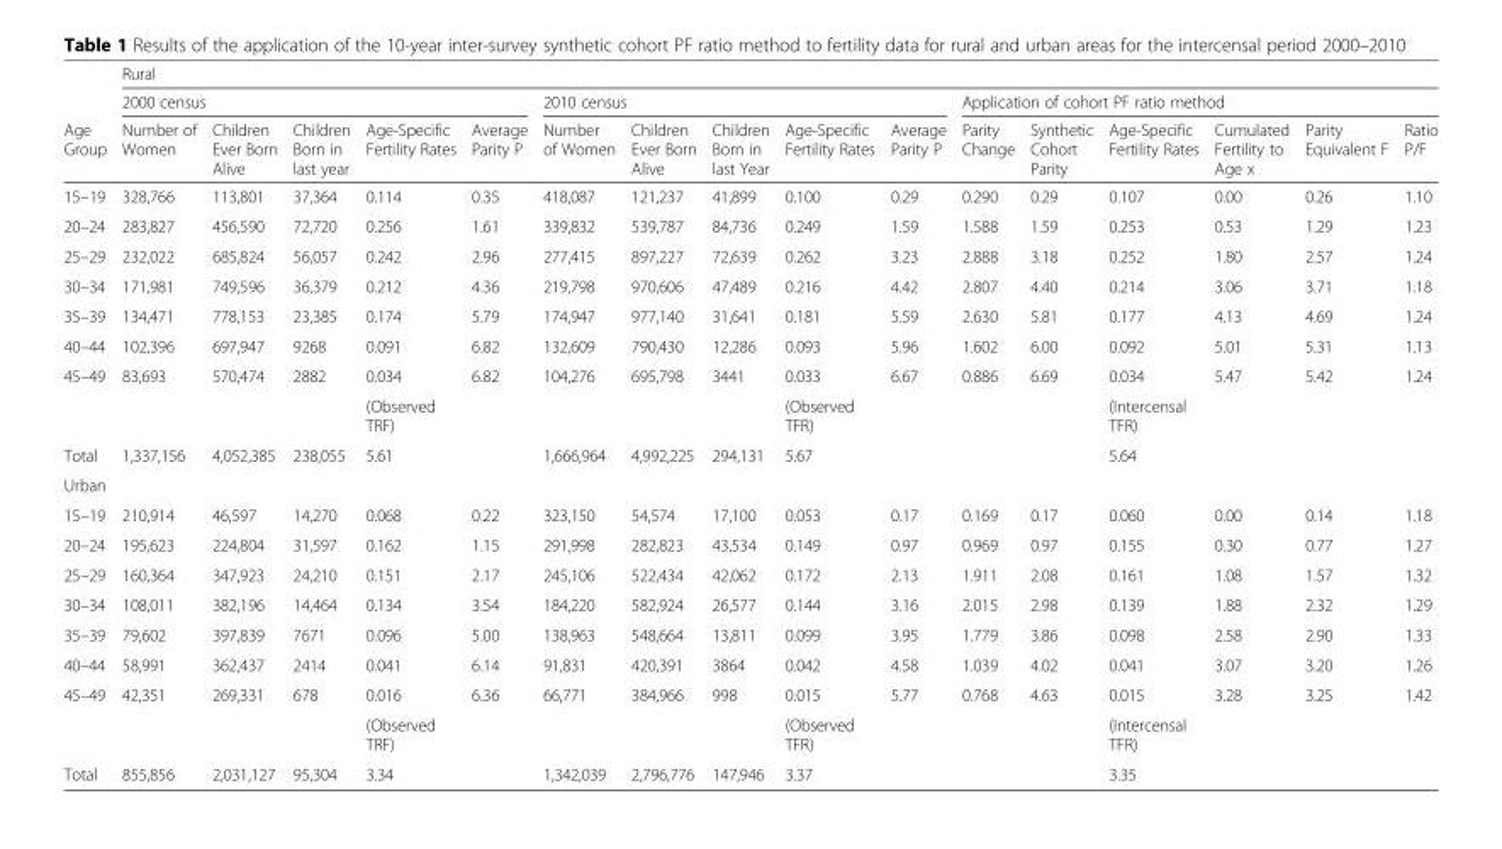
<table><thead><tr><td rowspan="3">Age Group</td><td colspan="16">Rural</td></tr><tr><td colspan="5">2000 census</td><td colspan="5">2010 census</td><td colspan="6">Application of cohort PF ratio method</td></tr><tr><td>Number of Women</td><td>Children Ever Born Alive</td><td>Children Born in last year</td><td>Age-Specific Fertility Rates</td><td>Average Parity P</td><td>Number of Women</td><td>Children Ever Born Alive</td><td>Children Born in last Year</td><td>Age-Specific Fertility Rates</td><td>Average Parity P</td><td>Parity Change</td><td>Synthetic Cohort Parity</td><td>Age-Specific Fertility Rates</td><td>Cumulated Fertility to Age x</td><td>Parity Equivalent F</td><td>Ratio P/F</td></tr></thead><tbody><tr><td>15–19</td><td>328,766</td><td>113,801</td><td>37,364</td><td>0.114</td><td>0.35</td><td>418,087</td><td>121,237</td><td>41,899</td><td>0.100</td><td>0.29</td><td>0.290</td><td>0.29</td><td>0.107</td><td>0.00</td><td>0.26</td><td>1.10</td></tr><tr><td>20–24</td><td>283,827</td><td>456,590</td><td>72,720</td><td>0.256</td><td>1.61</td><td>339,832</td><td>539,787</td><td>84,736</td><td>0.249</td><td>1.59</td><td>1.588</td><td>1.59</td><td>0.253</td><td>0.53</td><td>1.29</td><td>1.23</td></tr><tr><td>25–29</td><td>232,022</td><td>685,824</td><td>56,057</td><td>0.242</td><td>2.96</td><td>277,415</td><td>897,227</td><td>72,639</td><td>0.262</td><td>3.23</td><td>2.888</td><td>3.18</td><td>0.252</td><td>1.80</td><td>2.57</td><td>1.24</td></tr><tr><td>30–34</td><td>171,981</td><td>749,596</td><td>36,379</td><td>0.212</td><td>4.36</td><td>219,798</td><td>970,606</td><td>47,489</td><td>0.216</td><td>4.42</td><td>2.807</td><td>4.40</td><td>0.214</td><td>3.06</td><td>3.71</td><td>1.18</td></tr><tr><td>35–39</td><td>134,471</td><td>778,153</td><td>23,385</td><td>0.174</td><td>5.79</td><td>174,947</td><td>977,140</td><td>31,641</td><td>0.181</td><td>5.59</td><td>2.630</td><td>5.81</td><td>0.177</td><td>4.13</td><td>4.69</td><td>1.24</td></tr><tr><td>40–44</td><td>102,396</td><td>697,947</td><td>9268</td><td>0.091</td><td>6.82</td><td>132,609</td><td>790,430</td><td>12,286</td><td>0.093</td><td>5.96</td><td>1.602</td><td>6.00</td><td>0.092</td><td>5.01</td><td>5.31</td><td>1.13</td></tr><tr><td rowspan="2">45–49</td><td>83,693</td><td>570,474</td><td>2882</td><td>0.034</td><td>6.82</td><td>104,276</td><td>695,798</td><td>3441</td><td>0.033</td><td>6.67</td><td>0.886</td><td>6.69</td><td>0.034</td><td>5.47</td><td>5.42</td><td>1.24</td></tr><tr><td></td><td></td><td></td><td>(Observed TRF)</td><td></td><td></td><td></td><td></td><td>(Observed TFR)</td><td></td><td></td><td></td><td>(Intercensal TFR)</td><td></td><td></td><td></td></tr><tr><td>Total</td><td>1,337,156</td><td>4,052,385</td><td>238,055</td><td>5.61</td><td></td><td>1,666,964</td><td>4,992,225</td><td>294,131</td><td>5.67</td><td></td><td></td><td></td><td>5.64</td><td></td><td></td><td></td></tr><tr><td colspan="17">Urban</td></tr><tr><td>15–19</td><td>210,914</td><td>46,597</td><td>14,270</td><td>0.068</td><td>0.22</td><td>323,150</td><td>54,574</td><td>17,100</td><td>0.053</td><td>0.17</td><td>0.169</td><td>0.17</td><td>0.060</td><td>0.00</td><td>0.14</td><td>1.18</td></tr><tr><td>20–24</td><td>195,623</td><td>224,804</td><td>31,597</td><td>0.162</td><td>1.15</td><td>291,998</td><td>282,823</td><td>43,534</td><td>0.149</td><td>0.97</td><td>0.969</td><td>0.97</td><td>0.155</td><td>0.30</td><td>0.77</td><td>1.27</td></tr><tr><td>25–29</td><td>160,364</td><td>347,923</td><td>24,210</td><td>0.151</td><td>2.17</td><td>245,106</td><td>522,434</td><td>42,062</td><td>0.172</td><td>2.13</td><td>1.911</td><td>2.08</td><td>0.161</td><td>1.08</td><td>1.57</td><td>1.32</td></tr><tr><td>30–34</td><td>108,011</td><td>382,196</td><td>14,464</td><td>0.134</td><td>3.54</td><td>184,220</td><td>582,924</td><td>26,577</td><td>0.144</td><td>3.16</td><td>2.015</td><td>2.98</td><td>0.139</td><td>1.88</td><td>2.32</td><td>1.29</td></tr><tr><td>35–39</td><td>79,602</td><td>397,839</td><td>7671</td><td>0.096</td><td>5.00</td><td>138,963</td><td>548,664</td><td>13,811</td><td>0.099</td><td>3.95</td><td>1.779</td><td>3.86</td><td>0.098</td><td>2.58</td><td>2.90</td><td>1.33</td></tr><tr><td>40–44</td><td>58,991</td><td>362,437</td><td>2414</td><td>0.041</td><td>6.14</td><td>91,831</td><td>420,391</td><td>3864</td><td>0.042</td><td>4.58</td><td>1.039</td><td>4.02</td><td>0.041</td><td>3.07</td><td>3.20</td><td>1.26</td></tr><tr><td rowspan="2">45–49</td><td>42,351</td><td>269,331</td><td>678</td><td>0.016</td><td>6.36</td><td>66,771</td><td>384,966</td><td>998</td><td>0.015</td><td>5.77</td><td>0.768</td><td>4.63</td><td>0.015</td><td>3.28</td><td>3.25</td><td>1.42</td></tr><tr><td></td><td></td><td></td><td>(Observed TRF)</td><td></td><td></td><td></td><td></td><td>(Observed TFR)</td><td></td><td></td><td></td><td>(Intercensal TFR)</td><td></td><td></td><td></td></tr><tr><td>Total</td><td>855,856</td><td>2,031,127</td><td>95,304</td><td>3.34</td><td></td><td>1,342,039</td><td>2,796,776</td><td>147,946</td><td>3.37</td><td></td><td></td><td></td><td>3.35</td><td></td><td></td><td></td></tr></tbody></table>